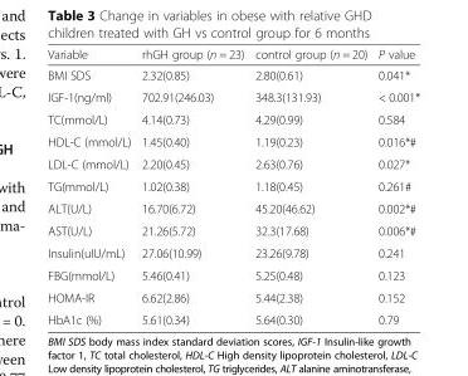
<table><thead><tr><td>Variable</td><td>rhGH group (n = 23)</td><td>control group (n = 20)</td><td>P value</td></tr></thead><tbody><tr><td>BMI SDS</td><td>2.32(0.85)</td><td>2.80(0.61)</td><td>0.041*</td></tr><tr><td>IGF-1(ng/ml)</td><td>702.91(246.03)</td><td>348.3(131.93)</td><td>&lt; 0.001*</td></tr><tr><td>TC(mmol/L)</td><td>4.14(0.73)</td><td>4.29(0.99)</td><td>0.584</td></tr><tr><td>HDL-C (mmol/L)</td><td>1.45(0.40)</td><td>1.19(0.23)</td><td>0.016*#</td></tr><tr><td>LDL-C (mmol/L)</td><td>2.20(0.45)</td><td>2.63(0.76)</td><td>0.027*</td></tr><tr><td>TG(mmol/L)</td><td>1.02(0.38)</td><td>1.18(0.45)</td><td>0.261#</td></tr><tr><td>ALT(U/L)</td><td>16.70(6.72)</td><td>45.20(46.62)</td><td>0.002*#</td></tr><tr><td>AST(U/L)</td><td>21.26(5.72)</td><td>32.3(17.68)</td><td>0.006*#</td></tr><tr><td>Insulin(uIU/mL)</td><td>27.06(10.99)</td><td>23.26(9.78)</td><td>0.241</td></tr><tr><td>FBG(mmol/L)</td><td>5.46(0.41)</td><td>5.25(0.48)</td><td>0.123</td></tr><tr><td>HOMA-IR</td><td>6.62(2.86)</td><td>5.44(2.38)</td><td>0.152</td></tr><tr><td>HbA1c (%)</td><td>5.61(0.34)</td><td>5.64(0.30)</td><td>0.79</td></tr></tbody></table>